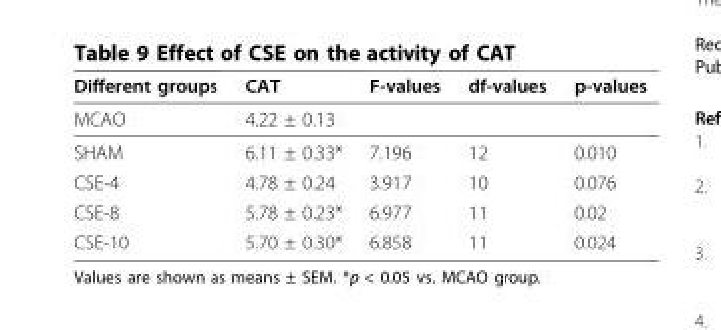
<table><thead><tr><td>Different groups</td><td>CAT</td><td>F-values</td><td>df-values</td><td>p-values</td></tr></thead><tbody><tr><td>MCAO</td><td>4.22 ± 0.13</td><td></td><td></td><td></td></tr><tr><td>SHAM</td><td>6.11 ± 0.33*</td><td>7.196</td><td>12</td><td>0.010</td></tr><tr><td>CSE-4</td><td>4.78 ± 0.24</td><td>3.917</td><td>10</td><td>0.076</td></tr><tr><td>CSE-8</td><td>5.78 ± 0.23*</td><td>6.977</td><td>11</td><td>0.02</td></tr><tr><td>CSE-10</td><td>5.70 ± 0.30*</td><td>6.858</td><td>11</td><td>0.024</td></tr></tbody></table>